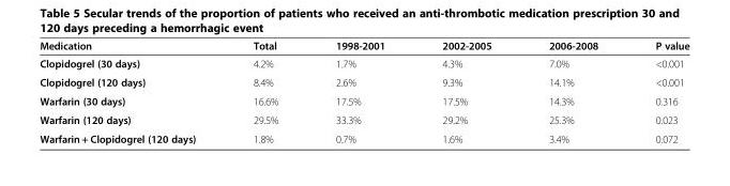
<table><thead><tr><td>Medication</td><td>Total</td><td>1998-2001</td><td>2002-2005</td><td>2006-2008</td><td>P value</td></tr></thead><tbody><tr><td>Clopidogrel (30 days)</td><td>4.2%</td><td>1.7%</td><td>4.3%</td><td>7.0%</td><td>&lt;0.001</td></tr><tr><td>Clopidogrel (120 days)</td><td>8.4%</td><td>2.6%</td><td>9.3%</td><td>14.1%</td><td>&lt;0.001</td></tr><tr><td>Warfarin (30 days)</td><td>16.6%</td><td>17.5%</td><td>17.5%</td><td>14.3%</td><td>0.316</td></tr><tr><td>Warfarin (120 days)</td><td>29.5%</td><td>33.3%</td><td>29.2%</td><td>25.3%</td><td>0.023</td></tr><tr><td>Warfarin + Clopidogrel (120 days)</td><td>1.8%</td><td>0.7%</td><td>1.6%</td><td>3.4%</td><td>0.072</td></tr></tbody></table>